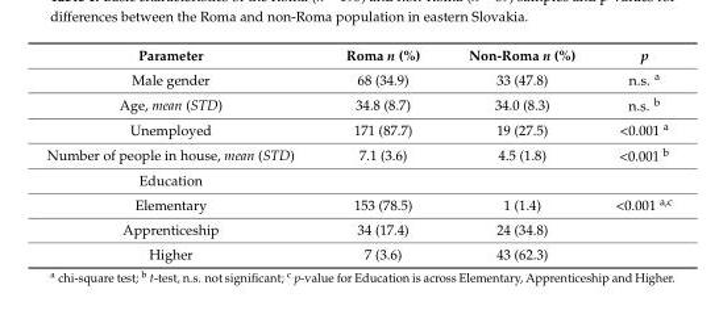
<table><thead><tr><td>Parameter</td><td>Roma n (%)</td><td>Non-Roma n (%)</td><td>p</td></tr></thead><tbody><tr><td>Male gender</td><td>68 (34.9)</td><td>33 (47.8)</td><td>n.s. <sup>a</sup></td></tr><tr><td>Age, mean (STD)</td><td>34.8 (8.7)</td><td>34.0 (8.3)</td><td>n.s. <sup>b</sup></td></tr><tr><td>Unemployed</td><td>171 (87.7)</td><td>19 (27.5)</td><td>&lt;0.001 <sup>a</sup></td></tr><tr><td>Number of people in house, mean (STD)</td><td>7.1 (3.6)</td><td>4.5 (1.8)</td><td>&lt;0.001 <sup>b</sup></td></tr><tr><td colspan="4">Education</td></tr><tr><td>Elementary</td><td>153 (78.5)</td><td>1 (1.4)</td><td>&lt;0.001 <sup>a,c</sup></td></tr><tr><td>Apprenticeship</td><td>34 (17.4)</td><td>24 (34.8)</td><td></td></tr><tr><td>Higher</td><td>7 (3.6)</td><td>43 (62.3)</td><td></td></tr></tbody></table>